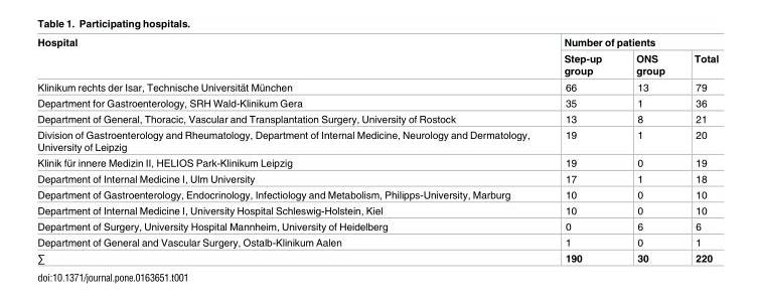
<table><thead><tr><td rowspan="2">Hospital</td><td colspan="3">Number of patients</td></tr><tr><td>Step-up group</td><td>ONS group</td><td>Total</td></tr></thead><tbody><tr><td>Klinikum rechts der Isar, Technische Universita¨t Mu¨nchen</td><td>66</td><td>13</td><td>79</td></tr><tr><td>Department for Gastroenterology, SRH Wald-Klinikum Gera</td><td>35</td><td>1</td><td>36</td></tr><tr><td>Department of General, Thoracic, Vascular and Transplantation Surgery, University of Rostock</td><td>13</td><td>8</td><td>21</td></tr><tr><td>Division of Gastroenterology and Rheumatology, Department of Internal Medicine, Neurology and Dermatology, University of Leipzig</td><td>19</td><td>1</td><td>20</td></tr><tr><td>Klinik fu¨r innere Medizin II, HELIOS Park-Klinikum Leipzig</td><td>19</td><td>0</td><td>19</td></tr><tr><td>Department of Internal Medicine I, Ulm University</td><td>17</td><td>1</td><td>18</td></tr><tr><td>Department of Gastroenterology, Endocrinology, Infectiology and Metabolism, Philipps-University, Marburg</td><td>10</td><td>0</td><td>10</td></tr><tr><td>Department of Internal Medicine I, University Hospital Schleswig-Holstein, Kiel</td><td>10</td><td>0</td><td>10</td></tr><tr><td>Department of Surgery, University Hospital Mannheim, University of Heidelberg</td><td>0</td><td>6</td><td>6</td></tr><tr><td>Department of General and Vascular Surgery, Ostalb-Klinikum Aalen</td><td>1</td><td>0</td><td>1</td></tr><tr><td>∑</td><td>190</td><td>30</td><td>220</td></tr></tbody></table>